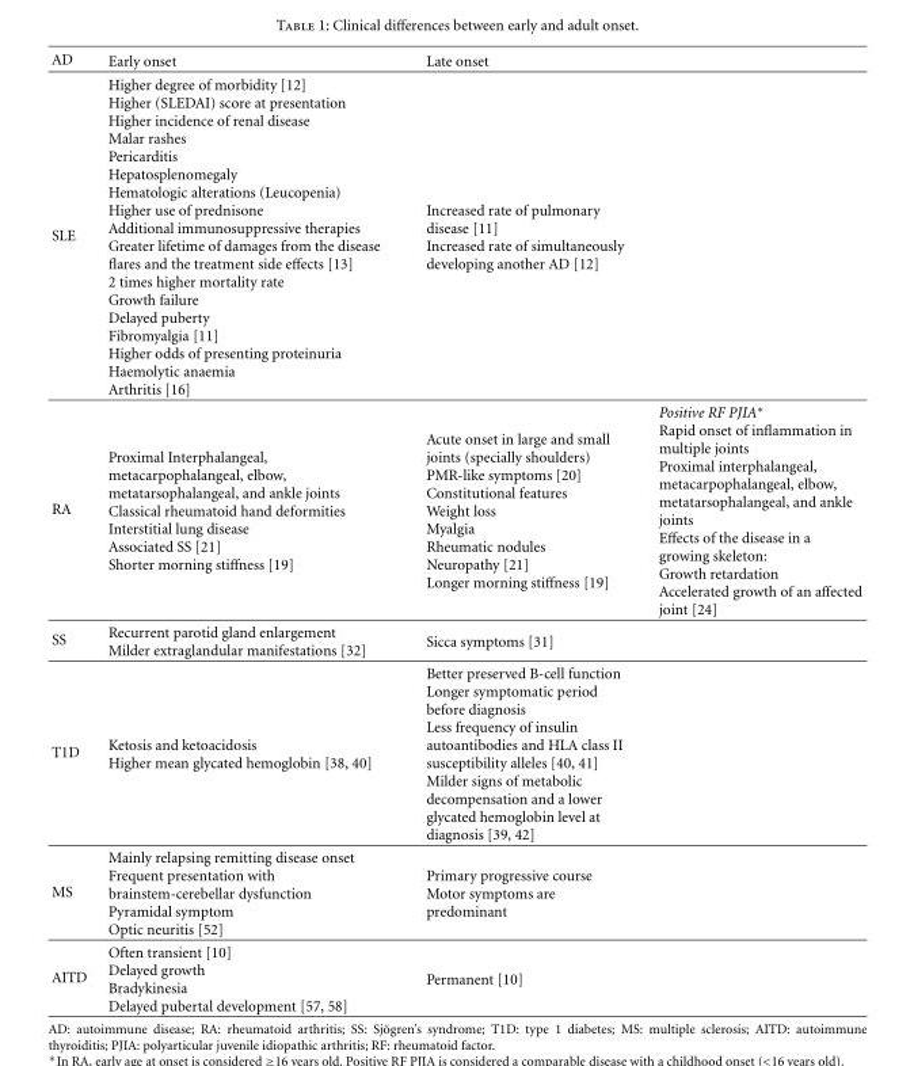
<table><thead><tr><td>AD</td><td>Early onset</td><td>Late onset</td><td></td></tr></thead><tbody><tr><td>SLE</td><td>Higher degree of morbidity [12] Higher (SLEDAI) score at presentation Higher incidence of renal disease Malar rashes Pericarditis Hepatosplenomegaly Hematologic alterations (Leucopenia) Higher use of prednisone Additional immunosuppressive therapies Greater lifetime of damages from the disease flares and the treatment side effects [13] 2 times higher mortality rate Growth failure Delayed puberty Fibromyalgia [11] Higher odds of presenting proteinuria Haemolytic anaemia Arthritis [16]</td><td>Increased rate of pulmonary disease [11] Increased rate of simultaneously developing another AD [12]</td><td></td></tr><tr><td>RA</td><td>Proximal Interphalangeal, metacarpophalangeal, elbow, metatarsophalangeal, and ankle joints Classical rheumatoid hand deformities Interstitial lung disease Associated SS [21] Shorter morning stiffness [19]</td><td>Acute onset in large and small joints (specially shoulders) PMR-like symptoms [20] Constitutional features Weight loss Myalgia Rheumatic nodules Neuropathy [21] Longer morning stiffness [19]</td><td>Positive RF PJIA∗ Rapid onset of inflammation in multiple joints Proximal interphalangeal, metacarpophalangeal, elbow, metatarsophalangeal, and ankle joints Effects of the disease in a growing skeleton: Growth retardation Accelerated growth of an affected joint [24]</td></tr><tr><td>SS</td><td>Recurrent parotid gland enlargement Milder extraglandular manifestations [32]</td><td>Sicca symptoms [31]</td><td></td></tr><tr><td>T1D</td><td>Ketosis and ketoacidosis Higher mean glycated hemoglobin [38, 40]</td><td>Better preserved B-cell function Longer symptomatic period before diagnosis Less frequency of insulin autoantibodies and HLA class II susceptibility alleles [40, 41] Milder signs of metabolic decompensation and a lower glycated hemoglobin level at diagnosis [39, 42]</td><td></td></tr><tr><td>MS</td><td>Mainly relapsing remitting disease onset Frequent presentation with brainstem-cerebellar dysfunction Pyramidal symptom Optic neuritis [52]</td><td>Primary progressive course Motor symptoms are predominant</td><td></td></tr><tr><td>AITD</td><td>Often transient [10] Delayed growth Bradykinesia Delayed pubertal development [57, 58]</td><td>Permanent [10]</td><td></td></tr></tbody></table>